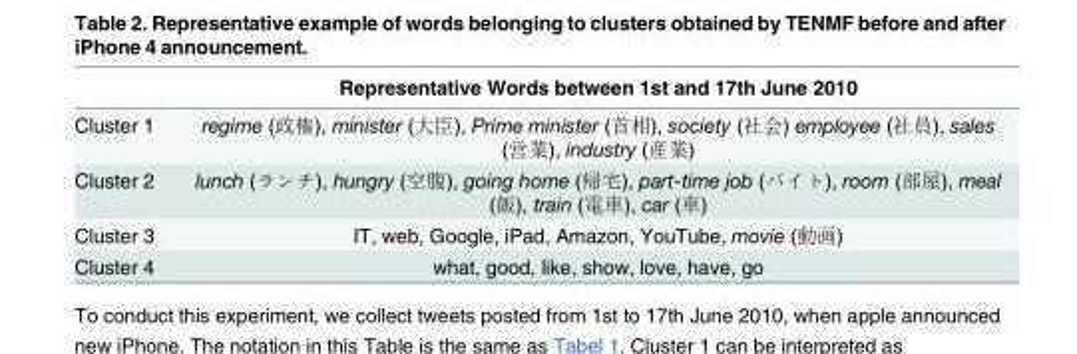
<table><thead><tr><td></td><td>Representative Words between 1st and 17th June 2010</td></tr></thead><tbody><tr><td>Cluster 1</td><td>regime (政権), minister (大臣), Prime minister (首相), society (社会) employee (社員), sales (営業), industry (産業)</td></tr><tr><td>Cluster 2</td><td>lunch (ランチ), hungry (空腹), going home (帰宅), part-time job (バイト), room (部屋), meal (飯), train (電車), car (車)</td></tr><tr><td>Cluster 3</td><td>IT, web, Google, iPad, Amazon, YouTube, movie (動画)</td></tr><tr><td>Cluster 4</td><td>what, good, like, show, love, have, go</td></tr></tbody></table>